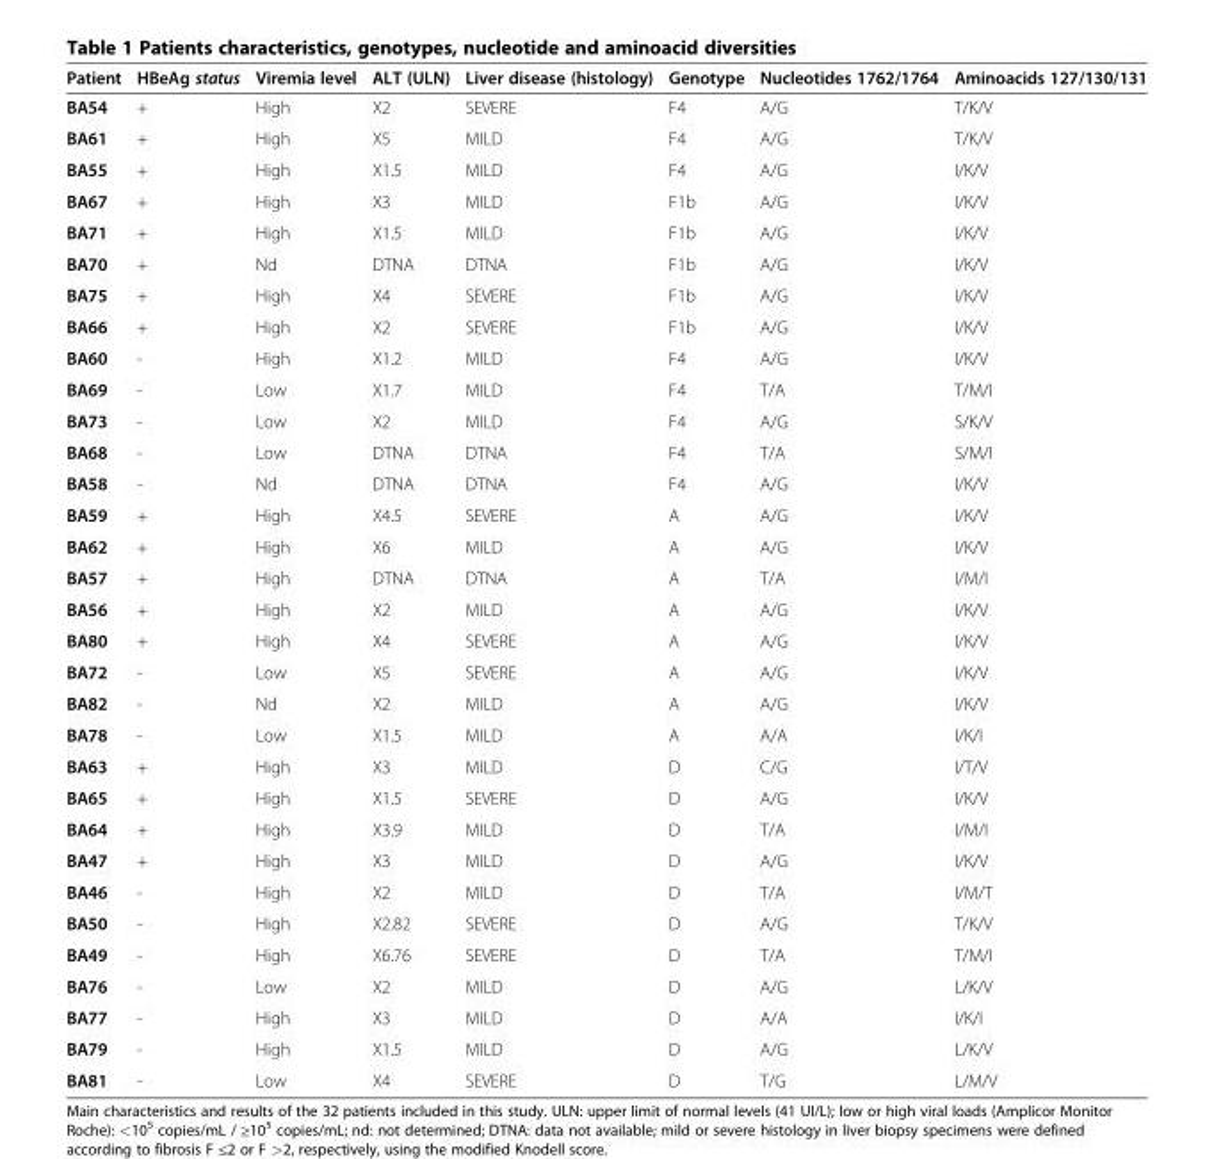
<table><thead><tr><td>Patient</td><td>HBeAg status</td><td>Viremia level</td><td>ALT (ULN)</td><td>Liver disease (histology)</td><td>Genotype</td><td>Nucleotides 1762/1764</td><td>Aminoacids 127/130/131</td></tr></thead><tbody><tr><td>BA54</td><td>+</td><td>High</td><td>X2</td><td>SEVERE</td><td>F4</td><td>A/G</td><td>T/K/V</td></tr><tr><td>BA61</td><td>+</td><td>High</td><td>X5</td><td>MILD</td><td>F4</td><td>A/G</td><td>T/K/V</td></tr><tr><td>BA55</td><td>+</td><td>High</td><td>X1.5</td><td>MILD</td><td>F4</td><td>A/G</td><td>I/K/V</td></tr><tr><td>BA67</td><td>+</td><td>High</td><td>X3</td><td>MILD</td><td>F1b</td><td>A/G</td><td>I/K/V</td></tr><tr><td>BA71</td><td>+</td><td>High</td><td>X1.5</td><td>MILD</td><td>F1b</td><td>A/G</td><td>I/K/V</td></tr><tr><td>BA70</td><td>+</td><td>Nd</td><td>DTNA</td><td>DTNA</td><td>F1b</td><td>A/G</td><td>I/K/V</td></tr><tr><td>BA75</td><td>+</td><td>High</td><td>X4</td><td>SEVERE</td><td>F1b</td><td>A/G</td><td>I/K/V</td></tr><tr><td>BA66</td><td>+</td><td>High</td><td>X2</td><td>SEVERE</td><td>F1b</td><td>A/G</td><td>I/K/V</td></tr><tr><td>BA60</td><td>-</td><td>High</td><td>X1.2</td><td>MILD</td><td>F4</td><td>A/G</td><td>I/K/V</td></tr><tr><td>BA69</td><td>-</td><td>Low</td><td>X1.7</td><td>MILD</td><td>F4</td><td>T/A</td><td>T/M/I</td></tr><tr><td>BA73</td><td>-</td><td>Low</td><td>X2</td><td>MILD</td><td>F4</td><td>A/G</td><td>S/K/V</td></tr><tr><td>BA68</td><td>-</td><td>Low</td><td>DTNA</td><td>DTNA</td><td>F4</td><td>T/A</td><td>S/M/I</td></tr><tr><td>BA58</td><td>-</td><td>Nd</td><td>DTNA</td><td>DTNA</td><td>F4</td><td>A/G</td><td>I/K/V</td></tr><tr><td>BA59</td><td>+</td><td>High</td><td>X4.5</td><td>SEVERE</td><td>A</td><td>A/G</td><td>I/K/V</td></tr><tr><td>BA62</td><td>+</td><td>High</td><td>X6</td><td>MILD</td><td>A</td><td>A/G</td><td>I/K/V</td></tr><tr><td>BA57</td><td>+</td><td>High</td><td>DTNA</td><td>DTNA</td><td>A</td><td>T/A</td><td>I/M/I</td></tr><tr><td>BA56</td><td>+</td><td>High</td><td>X2</td><td>MILD</td><td>A</td><td>A/G</td><td>I/K/V</td></tr><tr><td>BA80</td><td>+</td><td>High</td><td>X4</td><td>SEVERE</td><td>A</td><td>A/G</td><td>I/K/V</td></tr><tr><td>BA72</td><td>-</td><td>Low</td><td>X5</td><td>SEVERE</td><td>A</td><td>A/G</td><td>I/K/V</td></tr><tr><td>BA82</td><td>-</td><td>Nd</td><td>X2</td><td>MILD</td><td>A</td><td>A/G</td><td>I/K/V</td></tr><tr><td>BA78</td><td>-</td><td>Low</td><td>X1.5</td><td>MILD</td><td>A</td><td>A/A</td><td>I/K/I</td></tr><tr><td>BA63</td><td>+</td><td>High</td><td>X3</td><td>MILD</td><td>D</td><td>C/G</td><td>I/T/V</td></tr><tr><td>BA65</td><td>+</td><td>High</td><td>X1.5</td><td>SEVERE</td><td>D</td><td>A/G</td><td>I/K/V</td></tr><tr><td>BA64</td><td>+</td><td>High</td><td>X3.9</td><td>MILD</td><td>D</td><td>T/A</td><td>I/M/I</td></tr><tr><td>BA47</td><td>+</td><td>High</td><td>X3</td><td>MILD</td><td>D</td><td>A/G</td><td>I/K/V</td></tr><tr><td>BA46</td><td>-</td><td>High</td><td>X2</td><td>MILD</td><td>D</td><td>T/A</td><td>I/M/T</td></tr><tr><td>BA50</td><td>-</td><td>High</td><td>X2.82</td><td>SEVERE</td><td>D</td><td>A/G</td><td>T/K/V</td></tr><tr><td>BA49</td><td>-</td><td>High</td><td>X6.76</td><td>SEVERE</td><td>D</td><td>T/A</td><td>T/M/I</td></tr><tr><td>BA76</td><td>-</td><td>Low</td><td>X2</td><td>MILD</td><td>D</td><td>A/G</td><td>L/K/V</td></tr><tr><td>BA77</td><td>-</td><td>High</td><td>X3</td><td>MILD</td><td>D</td><td>A/A</td><td>I/K/I</td></tr><tr><td>BA79</td><td>-</td><td>High</td><td>X1.5</td><td>MILD</td><td>D</td><td>A/G</td><td>L/K/V</td></tr><tr><td>BA81</td><td>-</td><td>Low</td><td>X4</td><td>SEVERE</td><td>D</td><td>T/G</td><td>L/M/V</td></tr></tbody></table>